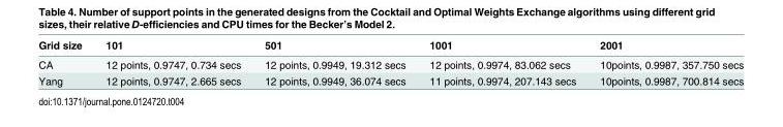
<table><thead><tr><td>Grid size</td><td>101</td><td>501</td><td>1001</td><td>2001</td></tr></thead><tbody><tr><td>CA</td><td>12 points, 0.9747, 0.734 secs</td><td>12 points, 0.9949, 19.312 secs</td><td>12 points, 0.9974, 83.062 secs</td><td>10points, 0.9987, 357.750 secs</td></tr><tr><td>Yang</td><td>12 points, 0.9747, 2.665 secs</td><td>12 points, 0.9949, 36.074 secs</td><td>11 points, 0.9974, 207.143 secs</td><td>10points, 0.9987, 700.814 secs</td></tr></tbody></table>